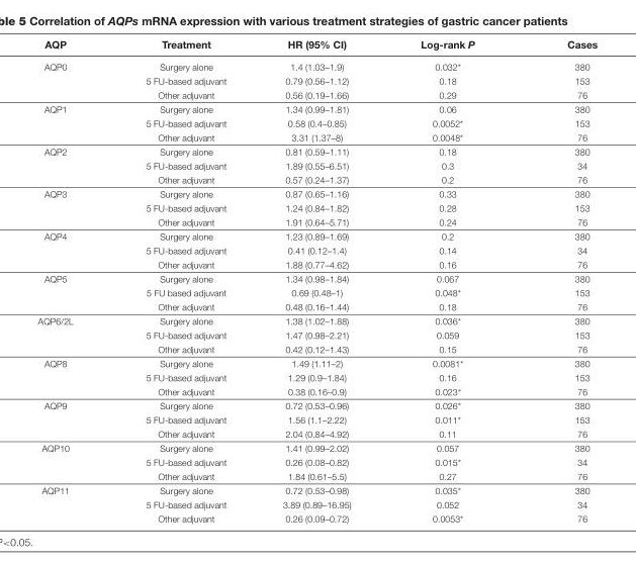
<table><thead><tr><td>AQP</td><td>Treatment</td><td>HR (95% CI)</td><td>Log-rank P</td><td>Cases</td></tr></thead><tbody><tr><td rowspan="3">AQP0</td><td>Surgery alone</td><td>1.4 (1.03–1.9)</td><td>0.032*</td><td>380</td></tr><tr><td>5 FU-based adjuvant</td><td>0.79 (0.56–1.12)</td><td>0.18</td><td>153</td></tr><tr><td>Other adjuvant</td><td>0.56 (0.19–1.66)</td><td>0.29</td><td>76</td></tr><tr><td rowspan="3">AQP1</td><td>Surgery alone</td><td>1.34 (0.99–1.81)</td><td>0.06</td><td>380</td></tr><tr><td>5 FU-based adjuvant</td><td>0.58 (0.4–0.85)</td><td>0.0052*</td><td>153</td></tr><tr><td>Other adjuvant</td><td>3.31 (1.37–8)</td><td>0.0048*</td><td>76</td></tr><tr><td rowspan="3">AQP2</td><td>Surgery alone</td><td>0.81 (0.59–1.11)</td><td>0.18</td><td>380</td></tr><tr><td>5 FU-based adjuvant</td><td>1.89 (0.55–6.51)</td><td>0.3</td><td>34</td></tr><tr><td>Other adjuvant</td><td>0.57 (0.24–1.37)</td><td>0.2</td><td>76</td></tr><tr><td rowspan="3">AQP3</td><td>Surgery alone</td><td>0.87 (0.65–1.16)</td><td>0.33</td><td>380</td></tr><tr><td>5 FU-based adjuvant</td><td>1.24 (0.84–1.82)</td><td>0.28</td><td>153</td></tr><tr><td>Other adjuvant</td><td>1.91 (0.64–5.71)</td><td>0.24</td><td>76</td></tr><tr><td rowspan="3">AQP4</td><td>Surgery alone</td><td>1.23 (0.89–1.69)</td><td>0.2</td><td>380</td></tr><tr><td>5 FU-based adjuvant</td><td>0.41 (0.12–1.4)</td><td>0.14</td><td>34</td></tr><tr><td>Other adjuvant</td><td>1.88 (0.77–4.62)</td><td>0.16</td><td>76</td></tr><tr><td rowspan="3">AQP5</td><td>Surgery alone</td><td>1.34 (0.98–1.84)</td><td>0.067</td><td>380</td></tr><tr><td>5 FU based adjuvant</td><td>0.69 (0.48–1)</td><td>0.048*</td><td>153</td></tr><tr><td>Other adjuvant</td><td>0.48 (0.16–1.44)</td><td>0.18</td><td>76</td></tr><tr><td rowspan="3">AQP6/2L</td><td>Surgery alone</td><td>1.38 (1.02–1.88)</td><td>0.036*</td><td>380</td></tr><tr><td>5 FU-based adjuvant</td><td>1.47 (0.98–2.21)</td><td>0.059</td><td>153</td></tr><tr><td>Other adjuvant</td><td>0.42 (0.12–1.43)</td><td>0.15</td><td>76</td></tr><tr><td rowspan="3">AQP8</td><td>Surgery alone</td><td>1.49 (1.11–2)</td><td>0.0081*</td><td>380</td></tr><tr><td>5 FU-based adjuvant</td><td>1.29 (0.9–1.84)</td><td>0.16</td><td>153</td></tr><tr><td>Other adjuvant</td><td>0.38 (0.16–0.9)</td><td>0.023*</td><td>76</td></tr><tr><td rowspan="3">AQP9</td><td>Surgery alone</td><td>0.72 (0.53–0.96)</td><td>0.026*</td><td>380</td></tr><tr><td>5 FU-based adjuvant</td><td>1.56 (1.1–2.22)</td><td>0.011*</td><td>153</td></tr><tr><td>Other adjuvant</td><td>2.04 (0.84–4.92)</td><td>0.11</td><td>76</td></tr><tr><td rowspan="3">AQP10</td><td>Surgery alone</td><td>1.41 (0.99–2.02)</td><td>0.057</td><td>380</td></tr><tr><td>5 FU-based adjuvant</td><td>0.26 (0.08–0.82)</td><td>0.015*</td><td>34</td></tr><tr><td>Other adjuvant</td><td>1.84 (0.61–5.5)</td><td>0.27</td><td>76</td></tr><tr><td rowspan="3">AQP11</td><td>Surgery alone</td><td>0.72 (0.53–0.98)</td><td>0.035*</td><td>380</td></tr><tr><td>5 FU-based adjuvant</td><td>3.89 (0.89–16.95)</td><td>0.052</td><td>34</td></tr><tr><td>Other adjuvant</td><td>0.26 (0.09–0.72)</td><td>0.0053*</td><td>76</td></tr></tbody></table>